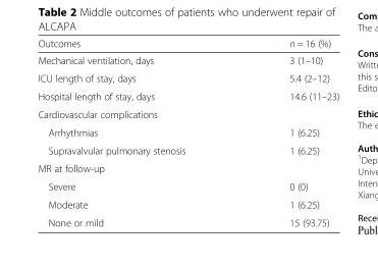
<table><thead><tr><td>Outcomes</td><td>n = 16 (%)</td></tr></thead><tbody><tr><td>Mechanical ventilation, days</td><td>3 (1–10)</td></tr><tr><td>ICU length of stay, days</td><td>5.4 (2–12)</td></tr><tr><td>Hospital length of stay, days</td><td>14.6 (11–23)</td></tr><tr><td colspan="2">Cardiovascular complications</td></tr><tr><td>Arrhythmias</td><td>1 (6.25)</td></tr><tr><td>Supravalvular pulmonary stenosis</td><td>1 (6.25)</td></tr><tr><td colspan="2">MR at follow-up</td></tr><tr><td>Severe</td><td>0 (0)</td></tr><tr><td>Moderate</td><td>1 (6.25)</td></tr><tr><td>None or mild</td><td>15 (93.75)</td></tr></tbody></table>